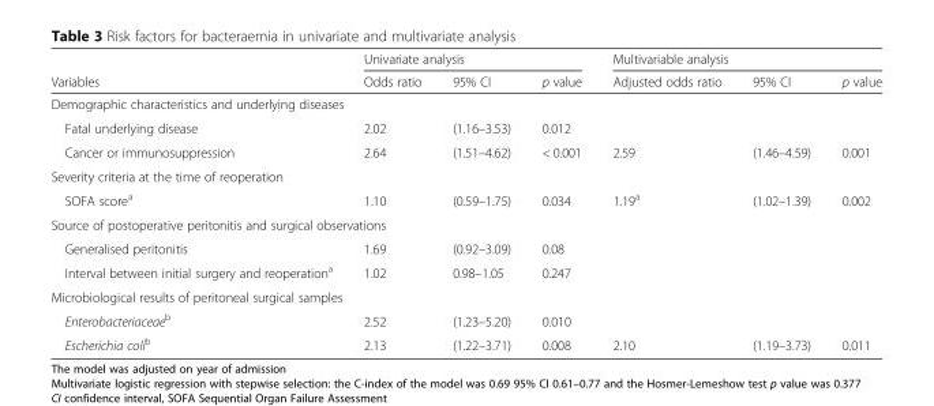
<table><thead><tr><td rowspan="2">Variables</td><td colspan="3">Univariate analysis</td><td colspan="3">Multivariable analysis</td></tr><tr><td>Odds ratio</td><td>95% CI</td><td>p value</td><td>Adjusted odds ratio</td><td>95% CI</td><td>p value</td></tr></thead><tbody><tr><td colspan="7">Demographic characteristics and underlying diseases</td></tr><tr><td>Fatal underlying disease</td><td>2.02</td><td>(1.16–3.53)</td><td>0.012</td><td></td><td></td><td></td></tr><tr><td>Cancer or immunosuppression</td><td>2.64</td><td>(1.51–4.62)</td><td>&lt; 0.001</td><td>2.59</td><td>(1.46–4.59)</td><td>0.001</td></tr><tr><td colspan="7">Severity criteria at the time of reoperation</td></tr><tr><td>SOFA score<sup>a</sup></td><td>1.10</td><td>(0.59–1.75)</td><td>0.034</td><td>1.19<sup>a</sup></td><td>(1.02–1.39)</td><td>0.002</td></tr><tr><td colspan="7">Source of postoperative peritonitis and surgical observations</td></tr><tr><td>Generalised peritonitis</td><td>1.69</td><td>(0.92–3.09)</td><td>0.08</td><td></td><td></td><td></td></tr><tr><td>Interval between initial surgery and reoperation<sup>a</sup></td><td>1.02</td><td>0.98–1.05</td><td>0.247</td><td></td><td></td><td></td></tr><tr><td colspan="7">Microbiological results of peritoneal surgical samples</td></tr><tr><td>Enterobacteriaceae<sup>b</sup></td><td>2.52</td><td>(1.23–5.20)</td><td>0.010</td><td></td><td></td><td></td></tr><tr><td>Escherichia coli<sup>b</sup></td><td>2.13</td><td>(1.22–3.71)</td><td>0.008</td><td>2.10</td><td>(1.19–3.73)</td><td>0.011</td></tr></tbody></table>